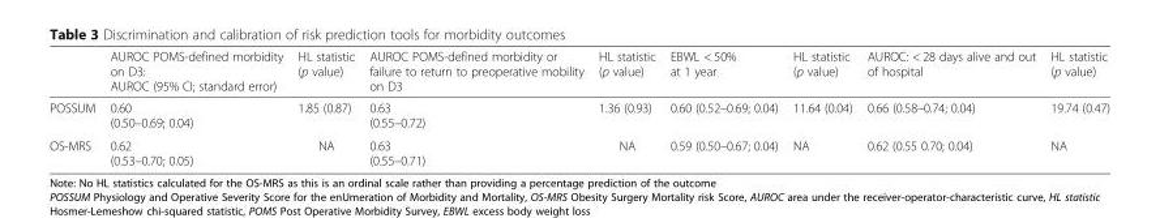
<table><thead><tr><td></td><td>AUROC POMS-defined morbidity on D3: AUROC (95% CI; standard error)</td><td>HL statistic (p value)</td><td>AUROC POMS-defined morbidity or failure to return to preoperative mobility on D3</td><td>HL statistic (p value)</td><td>EBWL &lt; 50% at 1 year</td><td>HL statistic (p value)</td><td>AUROC: &lt; 28 days alive and out of hospital</td><td>HL statistic (p value)</td></tr></thead><tbody><tr><td>POSSUM</td><td>0.60 (0.50–0.69; 0.04)</td><td>1.85 (0.87)</td><td>0.63 (0.55–0.72)</td><td>1.36 (0.93)</td><td>0.60 (0.52–0.69; 0.04)</td><td>11.64 (0.04)</td><td>0.66 (0.58–0.74; 0.04)</td><td>19.74 (0.47)</td></tr><tr><td>OS-MRS</td><td>0.62 (0.53–0.70; 0.05)</td><td>NA</td><td>0.63 (0.55–0.71)</td><td>NA</td><td>0.59 (0.50–0.67; 0.04)</td><td>NA</td><td>0.62 (0.55 0.70; 0.04)</td><td>NA</td></tr></tbody></table>